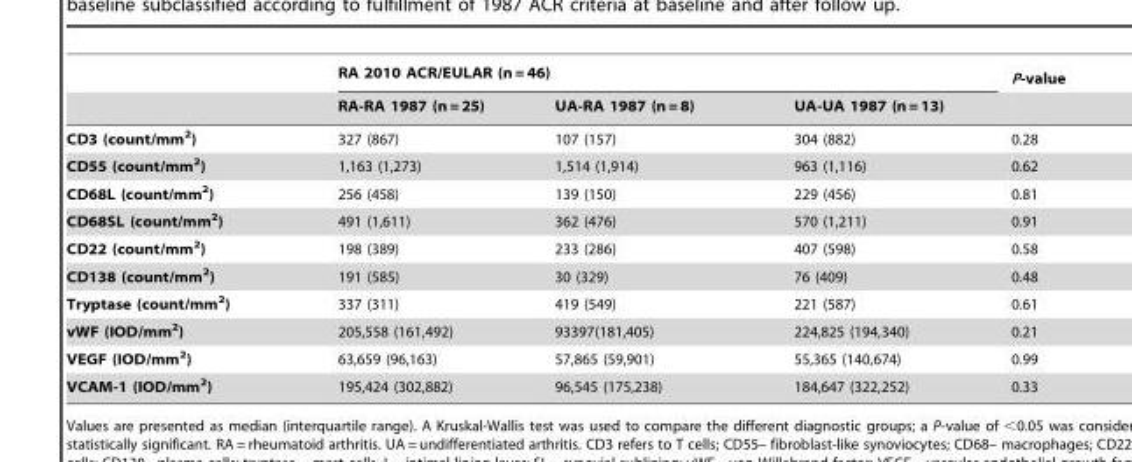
<table><thead><tr><td rowspan="2"></td><td colspan="3">RA 2010 ACR/EULAR (n = 46)</td><td rowspan="2">P-value</td></tr><tr><td>RA-RA 1987 (n = 25)</td><td>UA-RA 1987 (n = 8)</td><td>UA-UA 1987 (n = 13)</td></tr></thead><tbody><tr><td>CD3 (count/mm<sup>2</sup>)</td><td>327 (867)</td><td>107 (157)</td><td>304 (882)</td><td>0.28</td></tr><tr><td>CD55 (count/mm<sup>2</sup>)</td><td>1,163 (1,273)</td><td>1,514 (1,914)</td><td>963 (1,116)</td><td>0.62</td></tr><tr><td>CD68L (count/mm<sup>2</sup>)</td><td>256 (458)</td><td>139 (150)</td><td>229 (456)</td><td>0.81</td></tr><tr><td>CD68SL (count/mm<sup>2</sup>)</td><td>491 (1,611)</td><td>362 (476)</td><td>570 (1,211)</td><td>0.91</td></tr><tr><td>CD22 (count/mm<sup>2</sup>)</td><td>198 (389)</td><td>233 (286)</td><td>407 (598)</td><td>0.58</td></tr><tr><td>CD138 (count/mm<sup>2</sup>)</td><td>191 (585)</td><td>30 (329)</td><td>76 (409)</td><td>0.48</td></tr><tr><td>Tryptase (count/mm<sup>2</sup>)</td><td>337 (311)</td><td>419 (549)</td><td>221 (587)</td><td>0.61</td></tr><tr><td>vWF (IOD/mm<sup>2</sup>)</td><td>205,558 (161,492)</td><td>93397(181,405)</td><td>224,825 (194,340)</td><td>0.21</td></tr><tr><td>VEGF (IOD/mm<sup>2</sup>)</td><td>63,659 (96,163)</td><td>57,865 (59,901)</td><td>55,365 (140,674)</td><td>0.99</td></tr><tr><td>VCAM-1 (IOD/mm<sup>2</sup>)</td><td>195,424 (302,882)</td><td>96,545 (175,238)</td><td>184,647 (322,252)</td><td>0.33</td></tr></tbody></table>